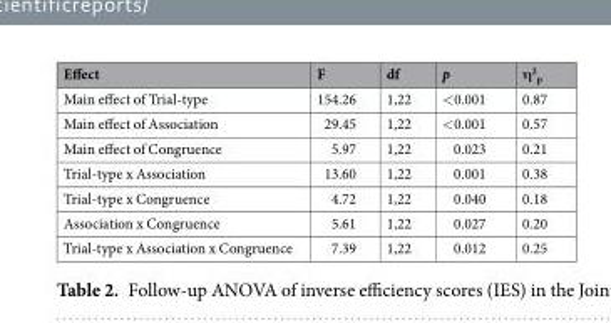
<table><thead><tr><td>Effect</td><td>F</td><td>df</td><td>p</td><td>η<sup>2</sup> <sub>p</sub></td></tr></thead><tbody><tr><td>Main effect of Trial-type</td><td>154.26</td><td>1,22</td><td>&lt;0.001</td><td>0.87</td></tr><tr><td>Main effect of Association</td><td>29.45</td><td>1,22</td><td>&lt;0.001</td><td>0.57</td></tr><tr><td>Main effect of Congruence</td><td>5.97</td><td>1,22</td><td>0.023</td><td>0.21</td></tr><tr><td>Trial-type x Association</td><td>13.60</td><td>1,22</td><td>0.001</td><td>0.38</td></tr><tr><td>Trial-type x Congruence</td><td>4.72</td><td>1,22</td><td>0.040</td><td>0.18</td></tr><tr><td>Association x Congruence</td><td>5.61</td><td>1,22</td><td>0.027</td><td>0.20</td></tr><tr><td>Trial-type x Association x Congruence</td><td>7.39</td><td>1,22</td><td>0.012</td><td>0.25</td></tr></tbody></table>